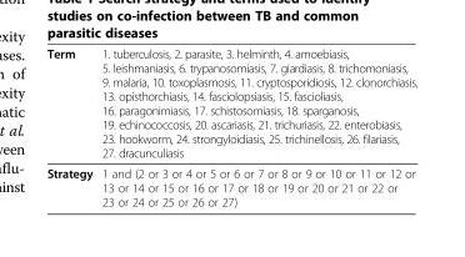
<table><thead><tr><td>Term</td><td>1. tuberculosis, 2. parasite, 3. helminth, 4. amoebiasis, 5. leishmaniasis, 6. trypanosomiasis, 7. giardiasis, 8. trichomoniasis, 9. malaria, 10. toxoplasmosis, 11. cryptosporidiosis, 12. clonorchiasis, 13. opisthorchiasis, 14. fasciolopsiasis, 15. fascioliasis, 16. paragonimiasis, 17. schistosomiasis, 18. sparganosis, 19. echinococcosis, 20. ascariasis, 21. trichuriasis, 22. enterobiasis, 23. hookworm, 24. strongyloidiasis, 25. trichinellosis, 26. filariasis, 27. dracunculiasis</td></tr></thead><tbody><tr><td>Strategy</td><td>1 and (2 or 3 or 4 or 5 or 6 or 7 or 8 or 9 or 10 or 11 or 12 or 13 or 14 or 15 or 16 or 17 or 18 or 19 or 20 or 21 or 22 or 23 or 24 or 25 or 26 or 27)</td></tr></tbody></table>